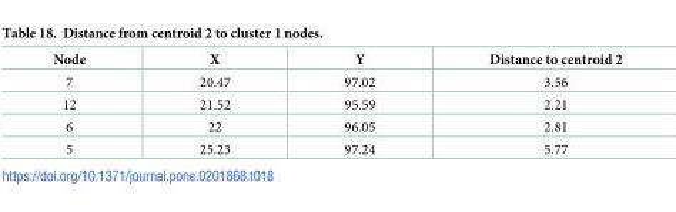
<table><thead><tr><td>Node</td><td>X</td><td>Y</td><td>Distance to centroid 2</td></tr></thead><tbody><tr><td>7</td><td>20.47</td><td>97.02</td><td>3.56</td></tr><tr><td>12</td><td>21.52</td><td>95.59</td><td>2.21</td></tr><tr><td>6</td><td>22</td><td>96.05</td><td>2.81</td></tr><tr><td>5</td><td>25.23</td><td>97.24</td><td>5.77</td></tr></tbody></table>